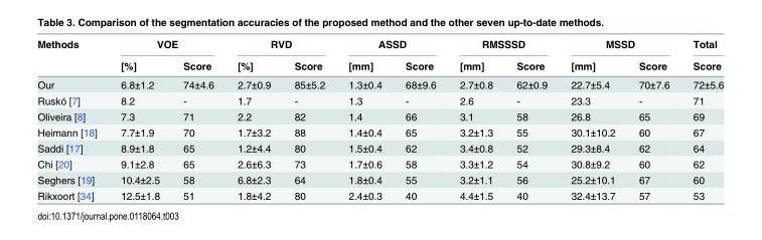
<table><thead><tr><td rowspan="2">Methods</td><td colspan="2">VOE</td><td colspan="2">RVD</td><td colspan="2">ASSD</td><td colspan="2">RMSSSD</td><td colspan="2">MSSD</td><td rowspan="2">Total Score</td></tr><tr><td>[%]</td><td>Score</td><td>[%]</td><td>Score</td><td>[mm]</td><td>Score</td><td>[mm]</td><td>Score</td><td>[mm]</td><td>Score</td></tr></thead><tbody><tr><td>Our</td><td>6.8±1.2</td><td>74±4.6</td><td>2.7±0.9</td><td>85±5.2</td><td>1.3±0.4</td><td>68±9.6</td><td>2.7±0.8</td><td>62±0.9</td><td>22.7±5.4</td><td>70±7.6</td><td>72±5.6</td></tr><tr><td>Ruskó [7]</td><td>8.2</td><td>-</td><td>1.7</td><td>-</td><td>1.3</td><td>-</td><td>2.6</td><td>-</td><td>23.3</td><td>-</td><td>71</td></tr><tr><td>Oliveira [8]</td><td>7.3</td><td>71</td><td>2.2</td><td>82</td><td>1.4</td><td>66</td><td>3.1</td><td>58</td><td>26.8</td><td>65</td><td>69</td></tr><tr><td>Heimann [18]</td><td>7.7±1.9</td><td>70</td><td>1.7±3.2</td><td>88</td><td>1.4±0.4</td><td>65</td><td>3.2±1.3</td><td>55</td><td>30.1±10.2</td><td>60</td><td>67</td></tr><tr><td>Saddi [17]</td><td>8.9±1.8</td><td>65</td><td>1.2±4.4</td><td>80</td><td>1.5±0.4</td><td>62</td><td>3.4±0.8</td><td>52</td><td>29.3±8.4</td><td>62</td><td>64</td></tr><tr><td>Chi [20]</td><td>9.1±2.8</td><td>65</td><td>2.6±6.3</td><td>73</td><td>1.7±0.6</td><td>58</td><td>3.3±1.2</td><td>54</td><td>30.8±9.2</td><td>60</td><td>62</td></tr><tr><td>Seghers [19]</td><td>10.4±2.5</td><td>58</td><td>6.8±2.3</td><td>64</td><td>1.8±0.4</td><td>55</td><td>3.2±1.1</td><td>56</td><td>25.2±10.1</td><td>67</td><td>60</td></tr><tr><td>Rikxoort [34]</td><td>12.5±1.8</td><td>51</td><td>1.8±4.2</td><td>80</td><td>2.4±0.3</td><td>40</td><td>4.4±1.5</td><td>40</td><td>32.4±13.7</td><td>57</td><td>53</td></tr></tbody></table>